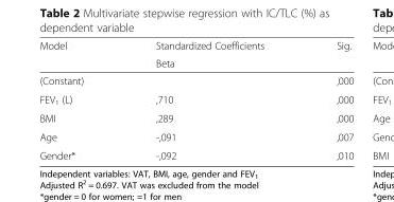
<table><thead><tr><td rowspan="2">Model</td><td rowspan="2">Standardized Coefficients Beta</td><td rowspan="2">Sig.</td></tr><tr></tr></thead><tbody><tr><td>(Constant)</td><td></td><td>,000</td></tr><tr><td>FEV<sub>1</sub> (L)</td><td>,710</td><td>,000</td></tr><tr><td>BMI</td><td>,289</td><td>,000</td></tr><tr><td>Age</td><td>-,091</td><td>,007</td></tr><tr><td>Gender*</td><td>-,092</td><td>,010</td></tr></tbody></table>